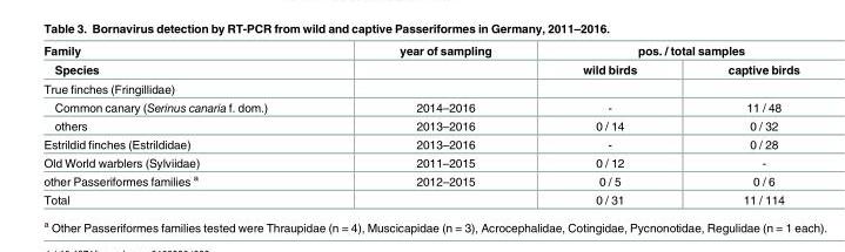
<table><thead><tr><td rowspan="2">Family Species</td><td rowspan="2">year of sampling</td><td colspan="2">pos. / total samples</td></tr><tr><td>wild birds</td><td>captive birds</td></tr></thead><tbody><tr><td colspan="4">True finches (Fringillidae)</td></tr><tr><td>Common canary (Serinus canaria f. dom.)</td><td>2014–2016</td><td>-</td><td>11 / 48</td></tr><tr><td>others</td><td>2013–2016</td><td>0 / 14</td><td>0 / 32</td></tr><tr><td>Estrildid finches (Estrildidae)</td><td>2013–2016</td><td>-</td><td>0 / 28</td></tr><tr><td>Old World warblers (Sylviidae)</td><td>2011–2015</td><td>0 / 12</td><td>-</td></tr><tr><td>other Passeriformes families <sup>a</sup></td><td>2012–2015</td><td>0 / 5</td><td>0 / 6</td></tr><tr><td>Total</td><td></td><td>0 / 31</td><td>11 / 114</td></tr></tbody></table>